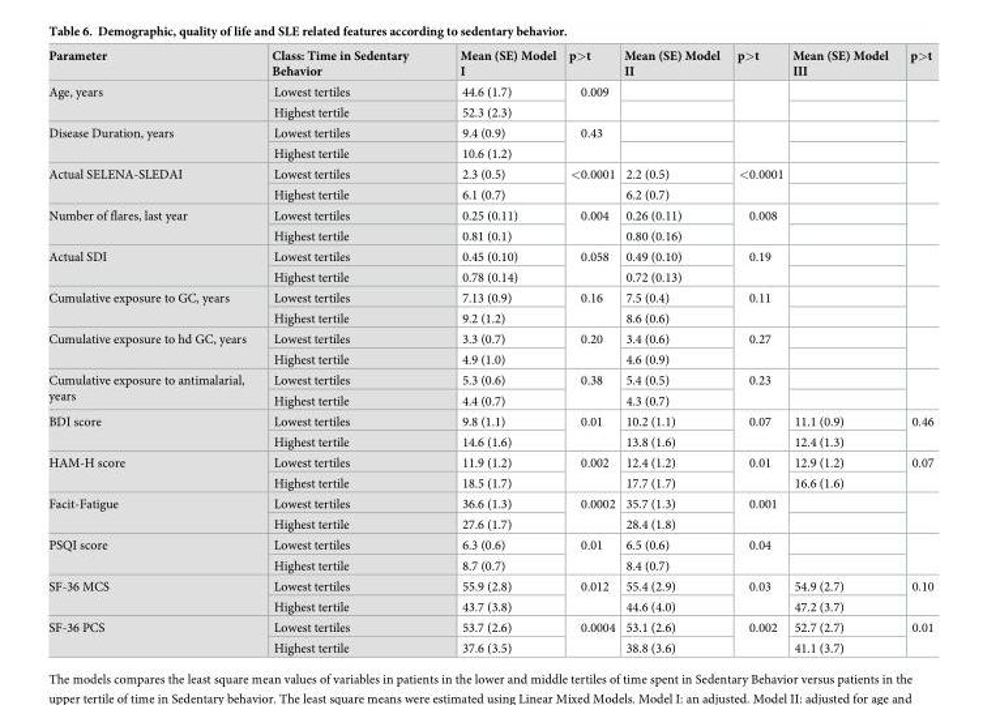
<table><thead><tr><td>Parameter</td><td>Class: Time in Sedentary Behavior</td><td>Mean (SE) Model I</td><td>p&gt;t</td><td>Mean (SE) Model II</td><td>p&gt;t</td><td>Mean (SE) Model III</td><td>p&gt;t</td></tr></thead><tbody><tr><td rowspan="2">Age, years</td><td>Lowest tertiles</td><td>44.6 (1.7)</td><td rowspan="2">0.009</td><td></td><td rowspan="2"></td><td></td><td rowspan="2"></td></tr><tr><td>Highest tertile</td><td>52.3 (2.3)</td><td></td><td></td></tr><tr><td rowspan="2">Disease Duration, years</td><td>Lowest tertiles</td><td>9.4 (0.9)</td><td rowspan="2">0.43</td><td></td><td rowspan="2"></td><td></td><td rowspan="2"></td></tr><tr><td>Highest tertile</td><td>10.6 (1.2)</td><td></td><td></td></tr><tr><td rowspan="2">Actual SELENA-SLEDAI</td><td>Lowest tertiles</td><td>2.3 (0.5)</td><td rowspan="2">&lt;0.0001</td><td>2.2 (0.5)</td><td rowspan="2">&lt;0.0001</td><td></td><td rowspan="2"></td></tr><tr><td>Highest tertile</td><td>6.1 (0.7)</td><td>6.2 (0.7)</td><td></td></tr><tr><td rowspan="2">Number of flares, last year</td><td>Lowest tertiles</td><td>0.25 (0.11)</td><td rowspan="2">0.004</td><td>0.26 (0.11)</td><td rowspan="2">0.008</td><td></td><td rowspan="2"></td></tr><tr><td>Highest tertile</td><td>0.81 (0.1)</td><td>0.80 (0.16)</td><td></td></tr><tr><td rowspan="2">Actual SDI</td><td>Lowest tertiles</td><td>0.45 (0.10)</td><td rowspan="2">0.058</td><td>0.49 (0.10)</td><td rowspan="2">0.19</td><td></td><td rowspan="2"></td></tr><tr><td>Highest tertile</td><td>0.78 (0.14)</td><td>0.72 (0.13)</td><td></td></tr><tr><td rowspan="2">Cumulative exposure to GC, years</td><td>Lowest tertiles</td><td>7.13 (0.9)</td><td rowspan="2">0.16</td><td>7.5 (0.4)</td><td rowspan="2">0.11</td><td></td><td rowspan="2"></td></tr><tr><td>Highest tertile</td><td>9.2 (1.2)</td><td>8.6 (0.6)</td><td></td></tr><tr><td rowspan="2">Cumulative exposure to hd GC, years</td><td>Lowest tertiles</td><td>3.3 (0.7)</td><td rowspan="2">0.20</td><td>3.4 (0.6)</td><td rowspan="2">0.27</td><td></td><td rowspan="2"></td></tr><tr><td>Highest tertile</td><td>4.9 (1.0)</td><td>4.6 (0.9)</td><td></td></tr><tr><td rowspan="2">Cumulative exposure to antimalarial, years</td><td>Lowest tertiles</td><td>5.3 (0.6)</td><td rowspan="2">0.38</td><td>5.4 (0.5)</td><td rowspan="2">0.23</td><td></td><td rowspan="2"></td></tr><tr><td>Highest tertile</td><td>4.4 (0.7)</td><td>4.3 (0.7)</td><td></td></tr><tr><td rowspan="2">BDI score</td><td>Lowest tertiles</td><td>9.8 (1.1)</td><td rowspan="2">0.01</td><td>10.2 (1.1)</td><td rowspan="2">0.07</td><td>11.1 (0.9)</td><td rowspan="2">0.46</td></tr><tr><td>Highest tertile</td><td>14.6 (1.6)</td><td>13.8 (1.6)</td><td>12.4 (1.3)</td></tr><tr><td rowspan="2">HAM-H score</td><td>Lowest tertiles</td><td>11.9 (1.2)</td><td rowspan="2">0.002</td><td>12.4 (1.2)</td><td rowspan="2">0.01</td><td>12.9 (1.2)</td><td rowspan="2">0.07</td></tr><tr><td>Highest tertile</td><td>18.5 (1.7)</td><td>17.7 (1.7)</td><td>16.6 (1.6)</td></tr><tr><td rowspan="2">Facit-Fatigue</td><td>Lowest tertiles</td><td>36.6 (1.3)</td><td rowspan="2">0.0002</td><td>35.7 (1.3)</td><td rowspan="2">0.001</td><td></td><td rowspan="2"></td></tr><tr><td>Highest tertile</td><td>27.6 (1.7)</td><td>28.4 (1.8)</td><td></td></tr><tr><td rowspan="2">PSQI score</td><td>Lowest tertiles</td><td>6.3 (0.6)</td><td rowspan="2">0.01</td><td>6.5 (0.6)</td><td rowspan="2">0.04</td><td></td><td rowspan="2"></td></tr><tr><td>Highest tertile</td><td>8.7 (0.7)</td><td>8.4 (0.7)</td><td></td></tr><tr><td rowspan="2">SF-36 MCS</td><td>Lowest tertiles</td><td>55.9 (2.8)</td><td rowspan="2">0.012</td><td>55.4 (2.9)</td><td rowspan="2">0.03</td><td>54.9 (2.7)</td><td rowspan="2">0.10</td></tr><tr><td>Highest tertile</td><td>43.7 (3.8)</td><td>44.6 (4.0)</td><td>47.2 (3.7)</td></tr><tr><td rowspan="2">SF-36 PCS</td><td>Lowest tertiles</td><td>53.7 (2.6)</td><td rowspan="2">0.0004</td><td>53.1 (2.6)</td><td rowspan="2">0.002</td><td>52.7 (2.7)</td><td rowspan="2">0.01</td></tr><tr><td>Highest tertile</td><td>37.6 (3.5)</td><td>38.8 (3.6)</td><td>41.1 (3.7)</td></tr></tbody></table>